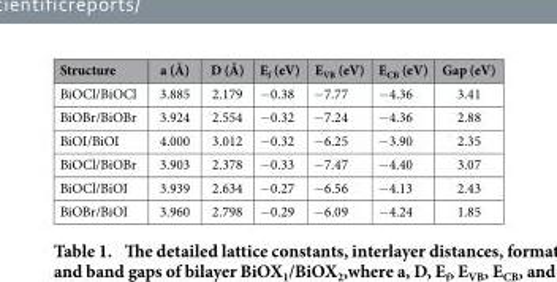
<table><thead><tr><td>Structure</td><td>a (Å)</td><td>D (Å)</td><td>E<sub>f</sub> (eV)</td><td>E<sub>VB</sub> (eV)</td><td>E<sub>CB</sub> (eV)</td><td>Gap (eV)</td></tr></thead><tbody><tr><td>BiOCl/BiOCl</td><td>3.885</td><td>2.179</td><td>− 0.38</td><td>− 7.77</td><td>− 4.36</td><td>3.41</td></tr><tr><td>BiOBr/BiOBr</td><td>3.924</td><td>2.554</td><td>− 0.32</td><td>− 7.24</td><td>− 4.36</td><td>2.88</td></tr><tr><td>BiOI/BiOI</td><td>4.000</td><td>3.012</td><td>− 0.32</td><td>− 6.25</td><td>− 3.90</td><td>2.35</td></tr><tr><td>BiOCl/BiOBr</td><td>3.903</td><td>2.378</td><td>− 0.33</td><td>− 7.47</td><td>− 4.40</td><td>3.07</td></tr><tr><td>BiOCl/BiOI</td><td>3.939</td><td>2.634</td><td>− 0.27</td><td>− 6.56</td><td>− 4.13</td><td>2.43</td></tr><tr><td>BiOBr/BiOI</td><td>3.960</td><td>2.798</td><td>− 0.29</td><td>− 6.09</td><td>− 4.24</td><td>1.85</td></tr></tbody></table>